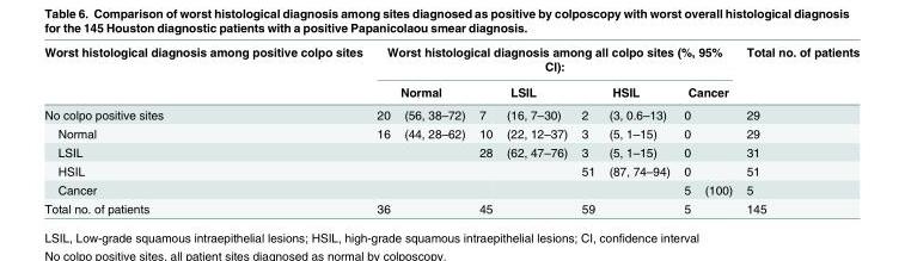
<table><thead><tr><td rowspan="3">Worst histological diagnosis among positive colpo sites No colpo positive sites</td><td colspan="8">Worst histological diagnosis among all colpo sites (%, 95% CI):</td><td rowspan="3">Total no. of patients 29</td></tr><tr><td colspan="2">Normal</td><td colspan="2">LSIL</td><td colspan="2">HSIL</td><td colspan="2">Cancer</td></tr><tr><td>20</td><td>(56, 38–72)</td><td>7</td><td>(16, 7–30)</td><td>2</td><td>(3, 0.6–13)</td><td>0</td><td></td></tr></thead><tbody><tr><td>Normal</td><td>16</td><td>(44, 28–62)</td><td>10</td><td>(22, 12–37)</td><td>3</td><td>(5, 1–15)</td><td>0</td><td></td><td>29</td></tr><tr><td>LSIL</td><td></td><td></td><td>28</td><td>(62, 47–76)</td><td>3</td><td>(5, 1–15)</td><td>0</td><td></td><td>31</td></tr><tr><td>HSIL</td><td></td><td></td><td></td><td></td><td>51</td><td>(87, 74–94)</td><td>0</td><td></td><td>51</td></tr><tr><td>Cancer</td><td></td><td></td><td></td><td></td><td></td><td></td><td>5</td><td>(100)</td><td>5</td></tr><tr><td>Total no. of patients</td><td>36</td><td></td><td>45</td><td></td><td>59</td><td></td><td>5</td><td></td><td>145</td></tr></tbody></table>